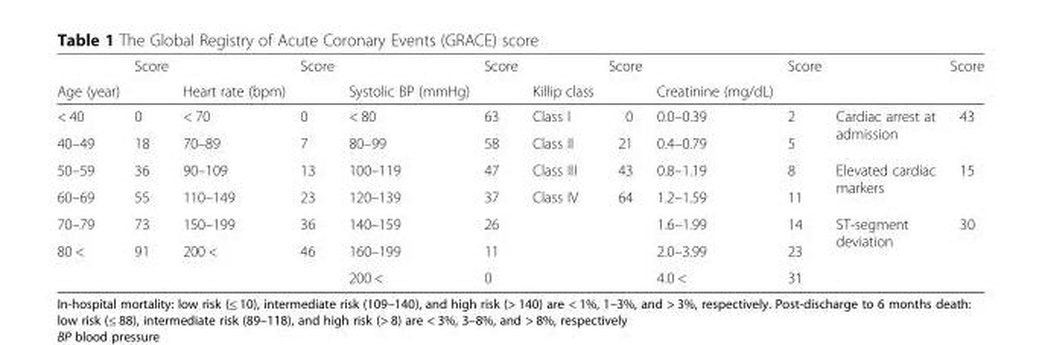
<table><thead><tr><td rowspan="2">Age (year)</td><td rowspan="2">Score</td><td rowspan="2">Heart rate (bpm)</td><td rowspan="2">Score</td><td rowspan="2">Systolic BP (mmHg)</td><td rowspan="2">Score</td><td rowspan="2">Killip class</td><td rowspan="2">Score</td><td rowspan="2">Creatinine (mg/dL)</td><td rowspan="2">Score</td><td rowspan="2"></td><td rowspan="2">Score</td></tr><tr></tr></thead><tbody><tr><td>&lt; 40</td><td>0</td><td>&lt; 70</td><td>0</td><td>&lt; 80</td><td>63</td><td>Class I</td><td>0</td><td>0.0–0.39</td><td>2</td><td rowspan="2">Cardiac arrest at admission</td><td rowspan="2">43</td></tr><tr><td>40–49</td><td>18</td><td>70–89</td><td>7</td><td>80–99</td><td>58</td><td>Class II</td><td>21</td><td>0.4–0.79</td><td>5</td></tr><tr><td>50–59</td><td>36</td><td>90–109</td><td>13</td><td>100–119</td><td>47</td><td>Class III</td><td>43</td><td>0.8–1.19</td><td>8</td><td rowspan="2">Elevated cardiac markers</td><td rowspan="2">15</td></tr><tr><td>60–69</td><td>55</td><td>110–149</td><td>23</td><td>120–139</td><td>37</td><td>Class IV</td><td>64</td><td>1.2–1.59</td><td>11</td></tr><tr><td>70–79</td><td>73</td><td>150–199</td><td>36</td><td>140–159</td><td>26</td><td></td><td></td><td>1.6–1.99</td><td>14</td><td rowspan="2">ST-segment deviation</td><td rowspan="2">30</td></tr><tr><td rowspan="2">80 &lt;</td><td>91</td><td>200 &lt;</td><td>46</td><td>160–199</td><td>11</td><td></td><td></td><td>2.0–3.99</td><td>23</td></tr><tr><td></td><td></td><td></td><td>200 &lt;</td><td>0</td><td></td><td></td><td>4.0 &lt;</td><td>31</td><td></td><td></td></tr></tbody></table>